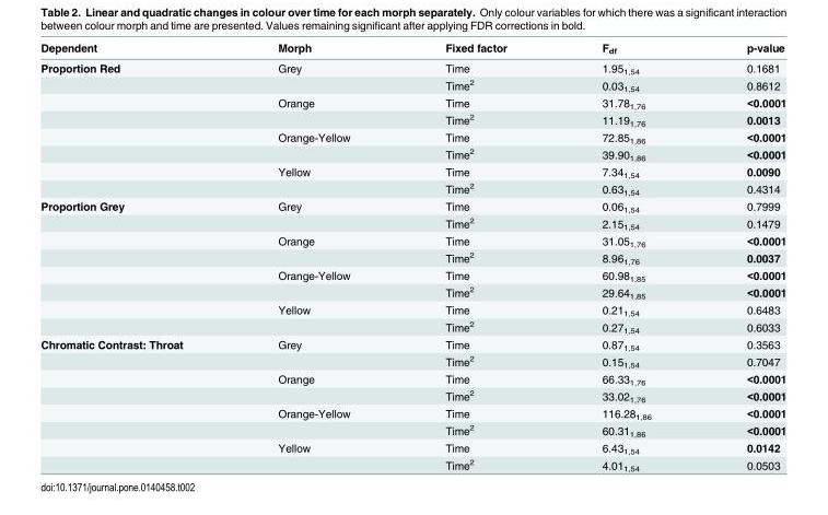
<table><thead><tr><td>Dependent</td><td>Morph</td><td>Fixed factor</td><td>F<sub>df</sub></td><td>p-value</td></tr></thead><tbody><tr><td rowspan="8">Proportion Red</td><td>Grey</td><td>Time</td><td>1.95<sub>1,54</sub></td><td>0.1681</td></tr><tr><td></td><td>Time<sup>2</sup></td><td>0.03<sub>1,54</sub></td><td>0.8612</td></tr><tr><td>Orange</td><td>Time</td><td>31.78<sub>1,76</sub></td><td>&lt;0.0001</td></tr><tr><td></td><td>Time<sup>2</sup></td><td>11.19<sub>1,76</sub></td><td>0.0013</td></tr><tr><td>Orange-Yellow</td><td>Time</td><td>72.85<sub>1,86</sub></td><td>&lt;0.0001</td></tr><tr><td></td><td>Time<sup>2</sup></td><td>39.90<sub>1,86</sub></td><td>&lt;0.0001</td></tr><tr><td>Yellow</td><td>Time</td><td>7.34<sub>1,54</sub></td><td>0.0090</td></tr><tr><td></td><td>Time<sup>2</sup></td><td>0.63<sub>1,54</sub></td><td>0.4314</td></tr><tr><td rowspan="8">Proportion Grey</td><td>Grey</td><td>Time</td><td>0.06<sub>1,54</sub></td><td>0.7999</td></tr><tr><td></td><td>Time<sup>2</sup></td><td>2.15<sub>1,54</sub></td><td>0.1479</td></tr><tr><td>Orange</td><td>Time</td><td>31.05<sub>1,76</sub></td><td>&lt;0.0001</td></tr><tr><td></td><td>Time<sup>2</sup></td><td>8.96<sub>1,76</sub></td><td>0.0037</td></tr><tr><td>Orange-Yellow</td><td>Time</td><td>60.98<sub>1,85</sub></td><td>&lt;0.0001</td></tr><tr><td></td><td>Time<sup>2</sup></td><td>29.64<sub>1,85</sub></td><td>&lt;0.0001</td></tr><tr><td>Yellow</td><td>Time</td><td>0.21<sub>1,54</sub></td><td>0.6483</td></tr><tr><td></td><td>Time<sup>2</sup></td><td>0.27<sub>1,54</sub></td><td>0.6033</td></tr><tr><td rowspan="8">Chromatic Contrast: Throat</td><td>Grey</td><td>Time</td><td>0.87<sub>1,54</sub></td><td>0.3563</td></tr><tr><td></td><td>Time<sup>2</sup></td><td>0.15<sub>1,54</sub></td><td>0.7047</td></tr><tr><td>Orange</td><td>Time</td><td>66.33<sub>1,76</sub></td><td>&lt;0.0001</td></tr><tr><td></td><td>Time<sup>2</sup></td><td>33.02<sub>1,76</sub></td><td>&lt;0.0001</td></tr><tr><td>Orange-Yellow</td><td>Time</td><td>116.28<sub>1,86</sub></td><td>&lt;0.0001</td></tr><tr><td></td><td>Time<sup>2</sup></td><td>60.31<sub>1,86</sub></td><td>&lt;0.0001</td></tr><tr><td>Yellow</td><td>Time</td><td>6.43<sub>1,54</sub></td><td>0.0142</td></tr><tr><td></td><td>Time<sup>2</sup></td><td>4.01<sub>1,54</sub></td><td>0.0503</td></tr></tbody></table>